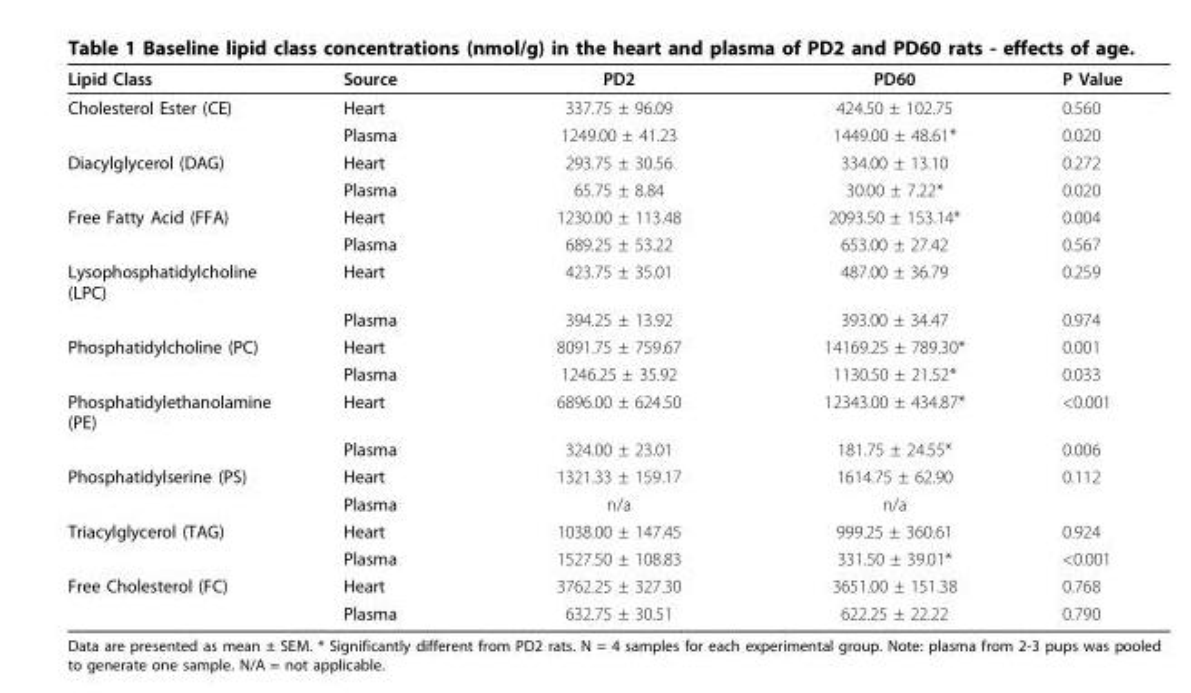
<table><thead><tr><td>Lipid Class</td><td>Source</td><td>PD2</td><td>PD60</td><td>P Value</td></tr></thead><tbody><tr><td rowspan="2">Cholesterol Ester (CE)</td><td>Heart</td><td>337.75 ± 96.09</td><td>424.50 ± 102.75</td><td>0.560</td></tr><tr><td>Plasma</td><td>1249.00 ± 41.23</td><td>1449.00 ± 48.61*</td><td>0.020</td></tr><tr><td rowspan="2">Diacylglycerol (DAG)</td><td>Heart</td><td>293.75 ± 30.56</td><td>334.00 ± 13.10</td><td>0.272</td></tr><tr><td>Plasma</td><td>65.75 ± 8.84</td><td>30.00 ± 7.22*</td><td>0.020</td></tr><tr><td rowspan="2">Free Fatty Acid (FFA)</td><td>Heart</td><td>1230.00 ± 113.48</td><td>2093.50 ± 153.14*</td><td>0.004</td></tr><tr><td>Plasma</td><td>689.25 ± 53.22</td><td>653.00 ± 27.42</td><td>0.567</td></tr><tr><td rowspan="2">Lysophosphatidylcholine (LPC)</td><td>Heart</td><td>423.75 ± 35.01</td><td>487.00 ± 36.79</td><td>0.259</td></tr><tr><td>Plasma</td><td>394.25 ± 13.92</td><td>393.00 ± 34.47</td><td>0.974</td></tr><tr><td rowspan="2">Phosphatidylcholine (PC)</td><td>Heart</td><td>8091.75 ± 759.67</td><td>14169.25 ± 789.30*</td><td>0.001</td></tr><tr><td>Plasma</td><td>1246.25 ± 35.92</td><td>1130.50 ± 21.52*</td><td>0.033</td></tr><tr><td rowspan="2">Phosphatidylethanolamine (PE)</td><td>Heart</td><td>6896.00 ± 624.50</td><td>12343.00 ± 434.87*</td><td>&lt;0.001</td></tr><tr><td>Plasma</td><td>324.00 ± 23.01</td><td>181.75 ± 24.55*</td><td>0.006</td></tr><tr><td rowspan="2">Phosphatidylserine (PS)</td><td>Heart</td><td>1321.33 ± 159.17</td><td>1614.75 ± 62.90</td><td>0.112</td></tr><tr><td>Plasma</td><td>n/a</td><td>n/a</td><td></td></tr><tr><td rowspan="2">Triacylglycerol (TAG)</td><td>Heart</td><td>1038.00 ± 147.45</td><td>999.25 ± 360.61</td><td>0.924</td></tr><tr><td>Plasma</td><td>1527.50 ± 108.83</td><td>331.50 ± 39.01*</td><td>&lt;0.001</td></tr><tr><td rowspan="2">Free Cholesterol (FC)</td><td>Heart</td><td>3762.25 ± 327.30</td><td>3651.00 ± 151.38</td><td>0.768</td></tr><tr><td>Plasma</td><td>632.75 ± 30.51</td><td>622.25 ± 22.22</td><td>0.790</td></tr></tbody></table>